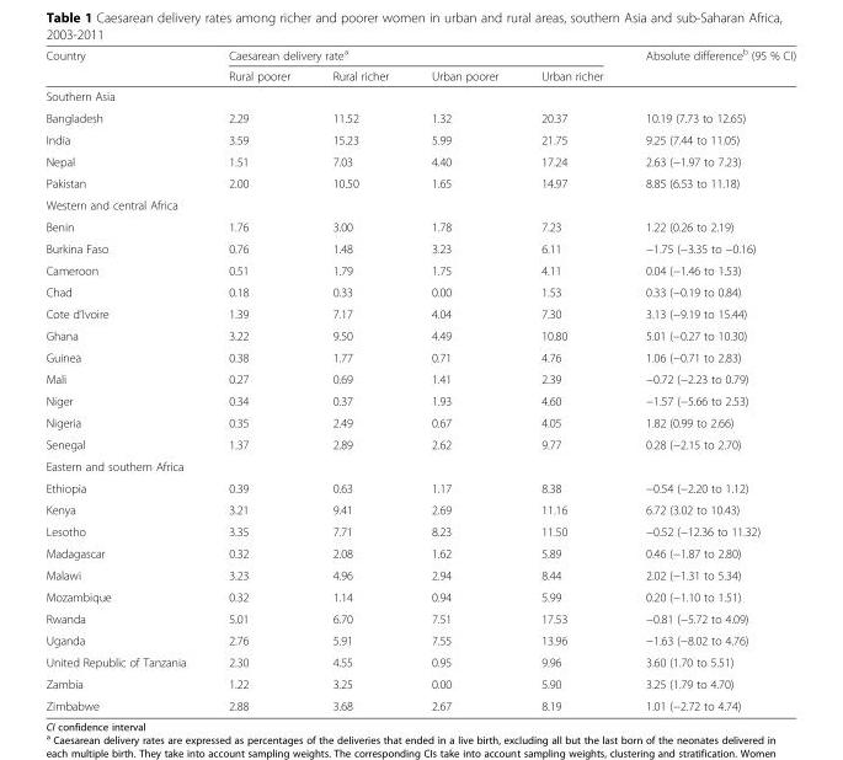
<table><thead><tr><td rowspan="2">Country</td><td colspan="4">Caesarean delivery rate<sup>a</sup></td><td rowspan="2">Absolute difference<sup>b</sup> (95 % CI)</td></tr><tr><td>Rural poorer</td><td>Rural richer</td><td>Urban poorer</td><td>Urban richer</td></tr></thead><tbody><tr><td colspan="6">Southern Asia</td></tr><tr><td>Bangladesh</td><td>2.29</td><td>11.52</td><td>1.32</td><td>20.37</td><td>10.19 (7.73 to 12.65)</td></tr><tr><td>India</td><td>3.59</td><td>15.23</td><td>5.99</td><td>21.75</td><td>9.25 (7.44 to 11.05)</td></tr><tr><td>Nepal</td><td>1.51</td><td>7.03</td><td>4.40</td><td>17.24</td><td>2.63 (−1.97 to 7.23)</td></tr><tr><td>Pakistan</td><td>2.00</td><td>10.50</td><td>1.65</td><td>14.97</td><td>8.85 (6.53 to 11.18)</td></tr><tr><td colspan="6">Western and central Africa</td></tr><tr><td>Benin</td><td>1.76</td><td>3.00</td><td>1.78</td><td>7.23</td><td>1.22 (0.26 to 2.19)</td></tr><tr><td>Burkina Faso</td><td>0.76</td><td>1.48</td><td>3.23</td><td>6.11</td><td>−1.75 (−3.35 to −0.16)</td></tr><tr><td>Cameroon</td><td>0.51</td><td>1.79</td><td>1.75</td><td>4.11</td><td>0.04 (−1.46 to 1.53)</td></tr><tr><td>Chad</td><td>0.18</td><td>0.33</td><td>0.00</td><td>1.53</td><td>0.33 (−0.19 to 0.84)</td></tr><tr><td>Cote d’Ivoire</td><td>1.39</td><td>7.17</td><td>4.04</td><td>7.30</td><td>3.13 (−9.19 to 15.44)</td></tr><tr><td>Ghana</td><td>3.22</td><td>9.50</td><td>4.49</td><td>10.80</td><td>5.01 (−0.27 to 10.30)</td></tr><tr><td>Guinea</td><td>0.38</td><td>1.77</td><td>0.71</td><td>4.76</td><td>1.06 (−0.71 to 2.83)</td></tr><tr><td>Mali</td><td>0.27</td><td>0.69</td><td>1.41</td><td>2.39</td><td>−0.72 (−2.23 to 0.79)</td></tr><tr><td>Niger</td><td>0.34</td><td>0.37</td><td>1.93</td><td>4.60</td><td>−1.57 (−5.66 to 2.53)</td></tr><tr><td>Nigeria</td><td>0.35</td><td>2.49</td><td>0.67</td><td>4.05</td><td>1.82 (0.99 to 2.66)</td></tr><tr><td>Senegal</td><td>1.37</td><td>2.89</td><td>2.62</td><td>9.77</td><td>0.28 (−2.15 to 2.70)</td></tr><tr><td colspan="6">Eastern and southern Africa</td></tr><tr><td>Ethiopia</td><td>0.39</td><td>0.63</td><td>1.17</td><td>8.38</td><td>−0.54 (−2.20 to 1.12)</td></tr><tr><td>Kenya</td><td>3.21</td><td>9.41</td><td>2.69</td><td>11.16</td><td>6.72 (3.02 to 10.43)</td></tr><tr><td>Lesotho</td><td>3.35</td><td>7.71</td><td>8.23</td><td>11.50</td><td>−0.52 (−12.36 to 11.32)</td></tr><tr><td>Madagascar</td><td>0.32</td><td>2.08</td><td>1.62</td><td>5.89</td><td>0.46 (−1.87 to 2.80)</td></tr><tr><td>Malawi</td><td>3.23</td><td>4.96</td><td>2.94</td><td>8.44</td><td>2.02 (−1.31 to 5.34)</td></tr><tr><td>Mozambique</td><td>0.32</td><td>1.14</td><td>0.94</td><td>5.99</td><td>0.20 (−1.10 to 1.51)</td></tr><tr><td>Rwanda</td><td>5.01</td><td>6.70</td><td>7.51</td><td>17.53</td><td>−0.81 (−5.72 to 4.09)</td></tr><tr><td>Uganda</td><td>2.76</td><td>5.91</td><td>7.55</td><td>13.96</td><td>−1.63 (−8.02 to 4.76)</td></tr><tr><td>United Republic of Tanzania</td><td>2.30</td><td>4.55</td><td>0.95</td><td>9.96</td><td>3.60 (1.70 to 5.51)</td></tr><tr><td>Zambia</td><td>1.22</td><td>3.25</td><td>0.00</td><td>5.90</td><td>3.25 (1.79 to 4.70)</td></tr><tr><td>Zimbabwe</td><td>2.88</td><td>3.68</td><td>2.67</td><td>8.19</td><td>1.01 (−2.72 to 4.74)</td></tr></tbody></table>